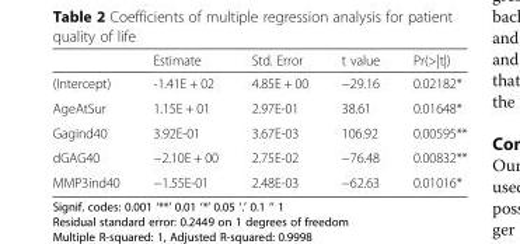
<table><thead><tr><td></td><td>Estimate</td><td>Std. Error</td><td>t value</td><td>Pr(&gt;|t|)</td></tr></thead><tbody><tr><td>(Intercept)</td><td>-1.41E + 02</td><td>4.85E + 00</td><td>−29.16</td><td>0.02182*</td></tr><tr><td>AgeAtSur</td><td>1.15E + 01</td><td>2.97E-01</td><td>38.61</td><td>0.01648*</td></tr><tr><td>Gagind40</td><td>3.92E-01</td><td>3.67E-03</td><td>106.92</td><td>0.00595**</td></tr><tr><td>dGAG40</td><td>−2.10E + 00</td><td>2.75E-02</td><td>−76.48</td><td>0.00832**</td></tr><tr><td>MMP3ind40</td><td>−1.55E-01</td><td>2.48E-03</td><td>−62.63</td><td>0.01016*</td></tr></tbody></table>